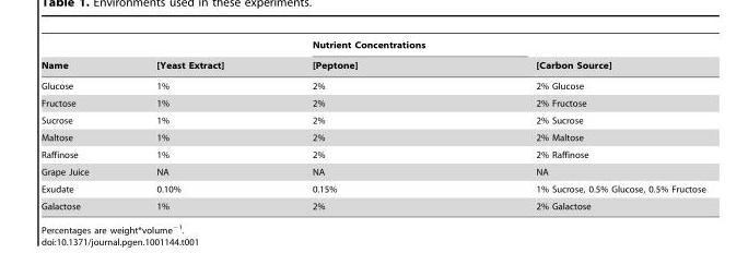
<table><thead><tr><td rowspan="2">Name</td><td rowspan="2">[Yeast Extract]</td><td rowspan="2">Nutrient Concentrations [Peptone]</td><td rowspan="2">[Carbon Source]</td></tr><tr></tr></thead><tbody><tr><td>Glucose</td><td>1%</td><td>2%</td><td>2% Glucose</td></tr><tr><td>Fructose</td><td>1%</td><td>2%</td><td>2% Fructose</td></tr><tr><td>Sucrose</td><td>1%</td><td>2%</td><td>2% Sucrose</td></tr><tr><td>Maltose</td><td>1%</td><td>2%</td><td>2% Maltose</td></tr><tr><td>Raffinose</td><td>1%</td><td>2%</td><td>2% Raffinose</td></tr><tr><td>Grape Juice</td><td>NA</td><td>NA</td><td>NA</td></tr><tr><td>Exudate</td><td>0.10%</td><td>0.15%</td><td>1% Sucrose, 0.5% Glucose, 0.5% Fructose</td></tr><tr><td>Galactose</td><td>1%</td><td>2%</td><td>2% Galactose</td></tr></tbody></table>